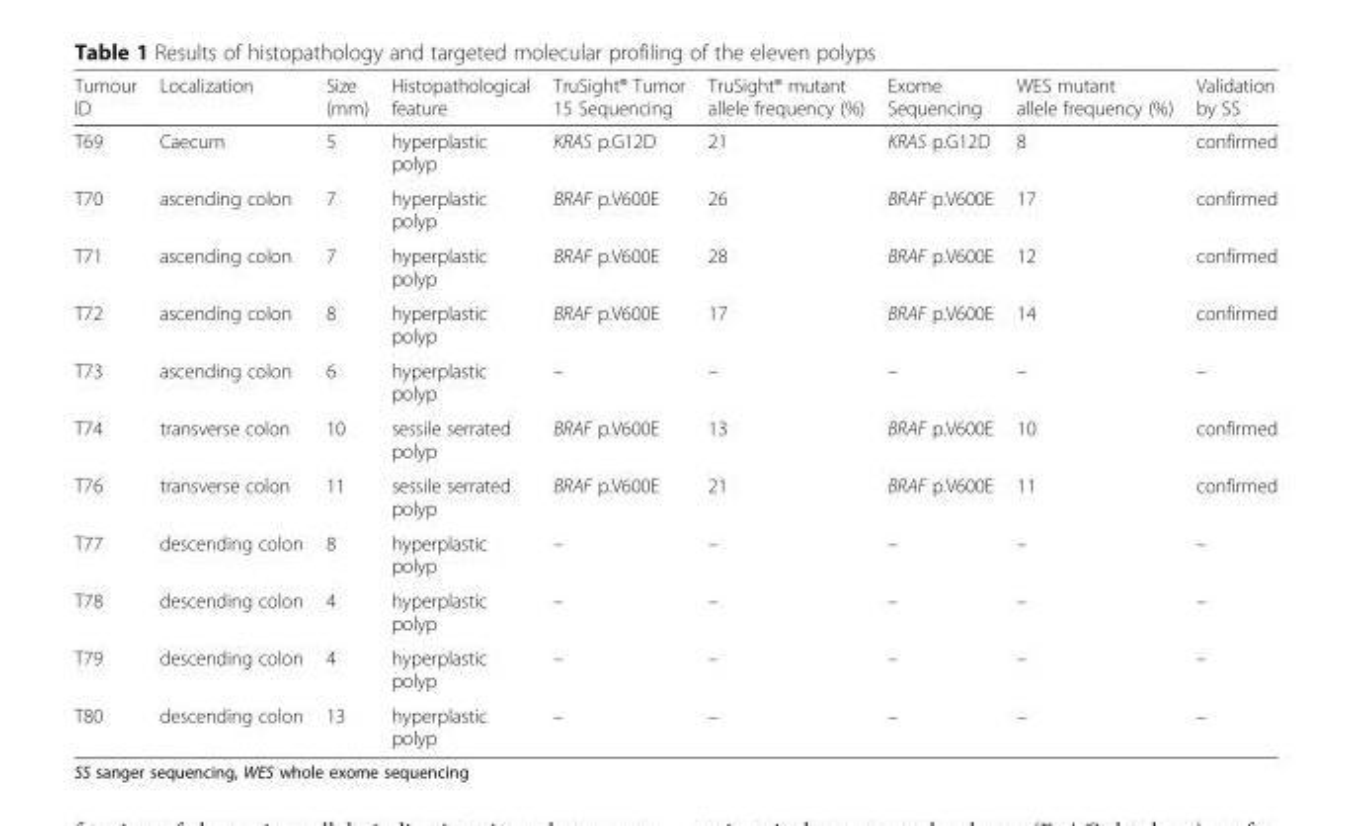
<table><thead><tr><td>Tumour ID</td><td>Localization</td><td>Size (mm)</td><td>Histopathological feature</td><td>TruSight® Tumor 15 Sequencing</td><td>TruSight® mutant allele frequency (%)</td><td>Exome Sequencing</td><td>WES mutant allele frequency (%)</td><td>Validation by SS</td></tr></thead><tbody><tr><td>T69</td><td>Caecum</td><td>5</td><td>hyperplastic polyp</td><td>KRAS p.G12D</td><td>21</td><td>KRAS p.G12D</td><td>8</td><td>confirmed</td></tr><tr><td>T70</td><td>ascending colon</td><td>7</td><td>hyperplastic polyp</td><td>BRAF p.V600E</td><td>26</td><td>BRAF p.V600E</td><td>17</td><td>confirmed</td></tr><tr><td>T71</td><td>ascending colon</td><td>7</td><td>hyperplastic polyp</td><td>BRAF p.V600E</td><td>28</td><td>BRAF p.V600E</td><td>12</td><td>confirmed</td></tr><tr><td>T72</td><td>ascending colon</td><td>8</td><td>hyperplastic polyp</td><td>BRAF p.V600E</td><td>17</td><td>BRAF p.V600E</td><td>14</td><td>confirmed</td></tr><tr><td>T73</td><td>ascending colon</td><td>6</td><td>hyperplastic polyp</td><td>–</td><td>–</td><td>–</td><td>–</td><td>–</td></tr><tr><td>T74</td><td>transverse colon</td><td>10</td><td>sessile serrated polyp</td><td>BRAF p.V600E</td><td>13</td><td>BRAF p.V600E</td><td>10</td><td>confirmed</td></tr><tr><td>T76</td><td>transverse colon</td><td>11</td><td>sessile serrated polyp</td><td>BRAF p.V600E</td><td>21</td><td>BRAF p.V600E</td><td>11</td><td>confirmed</td></tr><tr><td>T77</td><td>descending colon</td><td>8</td><td>hyperplastic polyp</td><td>–</td><td>–</td><td>–</td><td>–</td><td>–</td></tr><tr><td>T78</td><td>descending colon</td><td>4</td><td>hyperplastic polyp</td><td>–</td><td>–</td><td>–</td><td>–</td><td>–</td></tr><tr><td>T79</td><td>descending colon</td><td>4</td><td>hyperplastic polyp</td><td>–</td><td>–</td><td>–</td><td>–</td><td>–</td></tr><tr><td>T80</td><td>descending colon</td><td>13</td><td>hyperplastic polyp</td><td>–</td><td>–</td><td>–</td><td>–</td><td>–</td></tr></tbody></table>